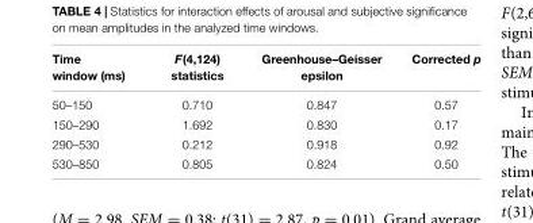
<table><thead><tr><td>Time window (ms)</td><td>F(4,124) statistics</td><td>Greenhouse–Geisser epsilon</td><td>Corrected p</td></tr></thead><tbody><tr><td>50–150</td><td>0.710</td><td>0.847</td><td>0.57</td></tr><tr><td>150–290</td><td>1.692</td><td>0.830</td><td>0.17</td></tr><tr><td>290–530</td><td>0.212</td><td>0.918</td><td>0.92</td></tr><tr><td>530–850</td><td>0.805</td><td>0.824</td><td>0.50</td></tr></tbody></table>